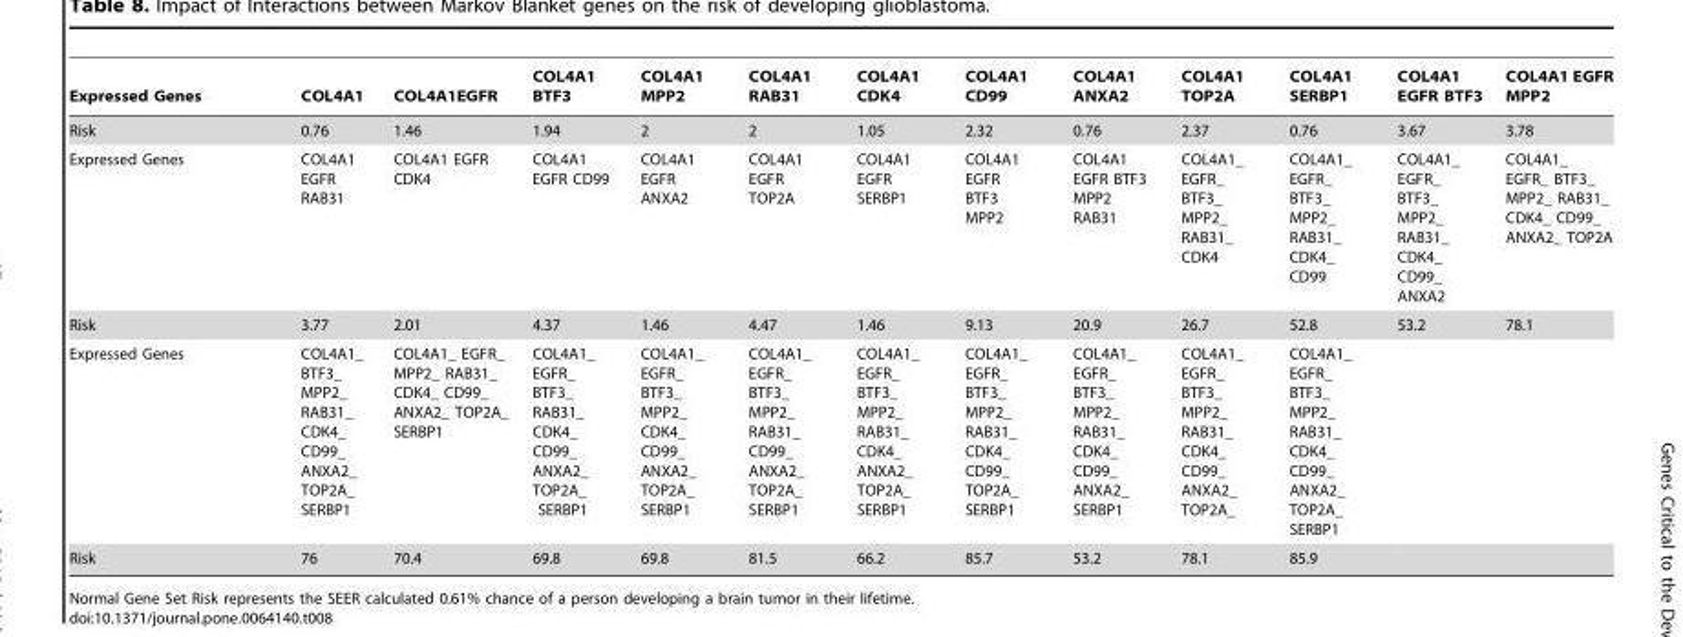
<table><thead><tr><td>Expressed Genes</td><td>COL4A1</td><td>COL4A1EGFR</td><td>COL4A1 BTF3</td><td>COL4A1 MPP2</td><td>COL4A1 RAB31</td><td>COL4A1 CDK4</td><td>COL4A1 CD99</td><td>COL4A1 ANXA2</td><td>COL4A1 TOP2A</td><td>COL4A1 SERBP1</td><td>COL4A1 EGFR BTF3</td><td>COL4A1 EGFR MPP2</td></tr></thead><tbody><tr><td>Risk</td><td>0.76</td><td>1.46</td><td>1.94</td><td>2</td><td>2</td><td>1.05</td><td>2.32</td><td>0.76</td><td>2.37</td><td>0.76</td><td>3.67</td><td>3.78</td></tr><tr><td>Expressed Genes</td><td>COL4A1 EGFR RAB31</td><td>COL4A1 EGFR CDK4</td><td>COL4A1 EGFR CD99</td><td>COL4A1 EGFR ANXA2</td><td>COL4A1 EGFR TOP2A</td><td>COL4A1 EGFR SERBP1</td><td>COL4A1 EGFR BTF3 MPP2</td><td>COL4A1 EGFR BTF3 MPP2 RAB31</td><td>COL4A1_ EGFR_ BTF3_ MPP2_ RAB31_ CDK4</td><td>COL4A1_ EGFR_ BTF3_ MPP2_ RAB31_ CDK4_ CD99</td><td>COL4A1_ EGFR_ BTF3_ MPP2_ RAB31_ CDK4_ CD99_ ANXA2</td><td>COL4A1_ EGFR_ BTF3_ MPP2_ RAB31_ CDK4_ CD99_ ANXA2_ TOP2A</td></tr><tr><td>Risk</td><td>3.77</td><td>2.01</td><td>4.37</td><td>1.46</td><td>4.47</td><td>1.46</td><td>9.13</td><td>20.9</td><td>26.7</td><td>52.8</td><td>53.2</td><td>78.1</td></tr><tr><td>Expressed Genes</td><td>COL4A1_ BTF3_ MPP2_ RAB31_ CDK4_ CD99_ ANXA2_ TOP2A_ SERBP1</td><td>COL4A1_ EGFR_ MPP2_ RAB31_ CDK4_ CD99_ ANXA2_ TOP2A_ SERBP1</td><td>COL4A1_ EGFR_ BTF3_ RAB31_ CDK4_ CD99_ ANXA2_ TOP2A_ SERBP1</td><td>COL4A1_ EGFR_ BTF3_ MPP2_ CDK4_ CD99_ ANXA2_ TOP2A_ SERBP1</td><td>COL4A1_ EGFR_ BTF3_ MPP2_ RAB31_ CD99_ ANXA2_ TOP2A_ SERBP1</td><td>COL4A1_ EGFR_ BTF3_ MPP2_ RAB31_ CDK4_ ANXA2_ TOP2A_ SERBP1</td><td>COL4A1_ EGFR_ BTF3_ MPP2_ RAB31_ CDK4_ CD99_ TOP2A_ SERBP1</td><td>COL4A1_ EGFR_ BTF3_ MPP2_ RAB31_ CDK4_ CD99_ ANXA2_ SERBP1</td><td>COL4A1_ EGFR_ BTF3_ MPP2_ RAB31_ CDK4_ CD99_ ANXA2_ TOP2A_</td><td>COL4A1_ EGFR_ BTF3_ MPP2_ RAB31_ CDK4_ CD99_ ANXA2_ TOP2A_ SERBP1</td><td></td><td></td></tr><tr><td>Risk</td><td>76</td><td>70.4</td><td>69.8</td><td>69.8</td><td>81.5</td><td>66.2</td><td>85.7</td><td>53.2</td><td>78.1</td><td>85.9</td><td></td><td></td></tr></tbody></table>